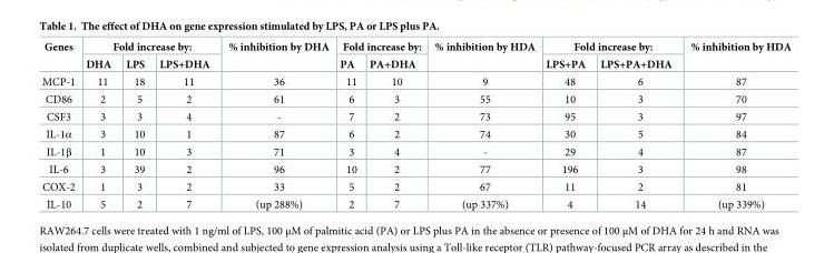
<table><thead><tr><td rowspan="2">Genes</td><td colspan="3">Fold increase by:</td><td rowspan="2">% inhibition by DHA</td><td colspan="2">Fold increase by:</td><td rowspan="2">% inhibition by HDA</td><td colspan="2">Fold increase by:</td><td rowspan="2">% inhibition by HDA</td></tr><tr><td>DHA</td><td>LPS</td><td>LPS+DHA</td><td>PA</td><td>PA+DHA</td><td>LPS+PA</td><td>LPS+PA+DHA</td></tr></thead><tbody><tr><td>MCP-1</td><td>11</td><td>18</td><td>11</td><td>36</td><td>11</td><td>10</td><td>9</td><td>48</td><td>6</td><td>87</td></tr><tr><td>CD86</td><td>2</td><td>5</td><td>2</td><td>61</td><td>6</td><td>3</td><td>55</td><td>10</td><td>3</td><td>70</td></tr><tr><td>CSF3</td><td>3</td><td>3</td><td>4</td><td>-</td><td>7</td><td>2</td><td>73</td><td>95</td><td>3</td><td>97</td></tr><tr><td>IL-1α</td><td>3</td><td>10</td><td>1</td><td>87</td><td>6</td><td>2</td><td>74</td><td>30</td><td>5</td><td>84</td></tr><tr><td>IL-1β</td><td>1</td><td>10</td><td>3</td><td>71</td><td>3</td><td>4</td><td>-</td><td>29</td><td>4</td><td>87</td></tr><tr><td>IL-6</td><td>3</td><td>39</td><td>2</td><td>96</td><td>10</td><td>2</td><td>77</td><td>196</td><td>3</td><td>98</td></tr><tr><td>COX-2</td><td>1</td><td>3</td><td>2</td><td>33</td><td>5</td><td>2</td><td>67</td><td>11</td><td>2</td><td>81</td></tr><tr><td>IL-10</td><td>5</td><td>2</td><td>7</td><td>(up 288%)</td><td>2</td><td>7</td><td>(up 337%)</td><td>4</td><td>14</td><td>(up 339%)</td></tr></tbody></table>